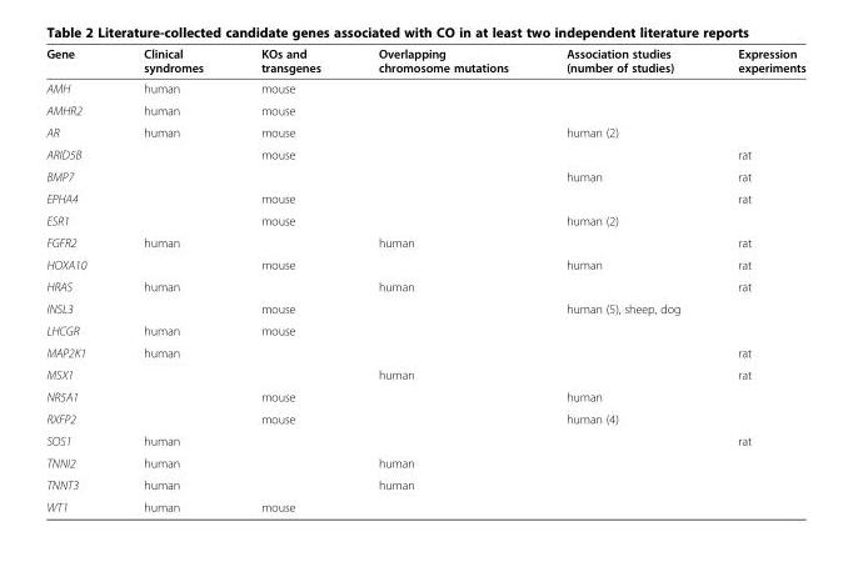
<table><thead><tr><td>Gene</td><td>Clinical syndromes</td><td>KOs and transgenes</td><td>Overlapping chromosome mutations</td><td>Association studies (number of studies)</td><td>Expression experiments</td></tr></thead><tbody><tr><td>AMH</td><td>human</td><td>mouse</td><td></td><td></td><td></td></tr><tr><td>AMHR2</td><td>human</td><td>mouse</td><td></td><td></td><td></td></tr><tr><td>AR</td><td>human</td><td>mouse</td><td></td><td>human (2)</td><td></td></tr><tr><td>ARID5B</td><td></td><td>mouse</td><td></td><td></td><td>rat</td></tr><tr><td>BMP7</td><td></td><td></td><td></td><td>human</td><td>rat</td></tr><tr><td>EPHA4</td><td></td><td>mouse</td><td></td><td></td><td>rat</td></tr><tr><td>ESR1</td><td></td><td>mouse</td><td></td><td>human (2)</td><td></td></tr><tr><td>FGFR2</td><td>human</td><td></td><td>human</td><td></td><td>rat</td></tr><tr><td>HOXA10</td><td></td><td>mouse</td><td></td><td>human</td><td>rat</td></tr><tr><td>HRAS</td><td>human</td><td></td><td>human</td><td></td><td>rat</td></tr><tr><td>INSL3</td><td></td><td>mouse</td><td></td><td>human (5), sheep, dog</td><td></td></tr><tr><td>LHCGR</td><td>human</td><td>mouse</td><td></td><td></td><td></td></tr><tr><td>MAP2K1</td><td>human</td><td></td><td></td><td></td><td>rat</td></tr><tr><td>MSX1</td><td></td><td></td><td>human</td><td></td><td>rat</td></tr><tr><td>NR5A1</td><td></td><td>mouse</td><td></td><td>human</td><td></td></tr><tr><td>RXFP2</td><td></td><td>mouse</td><td></td><td>human (4)</td><td></td></tr><tr><td>SOS1</td><td>human</td><td></td><td></td><td></td><td>rat</td></tr><tr><td>TNNI2</td><td>human</td><td></td><td>human</td><td></td><td></td></tr><tr><td>TNNT3</td><td>human</td><td></td><td>human</td><td></td><td></td></tr><tr><td>WT1</td><td>human</td><td>mouse</td><td></td><td></td><td></td></tr></tbody></table>